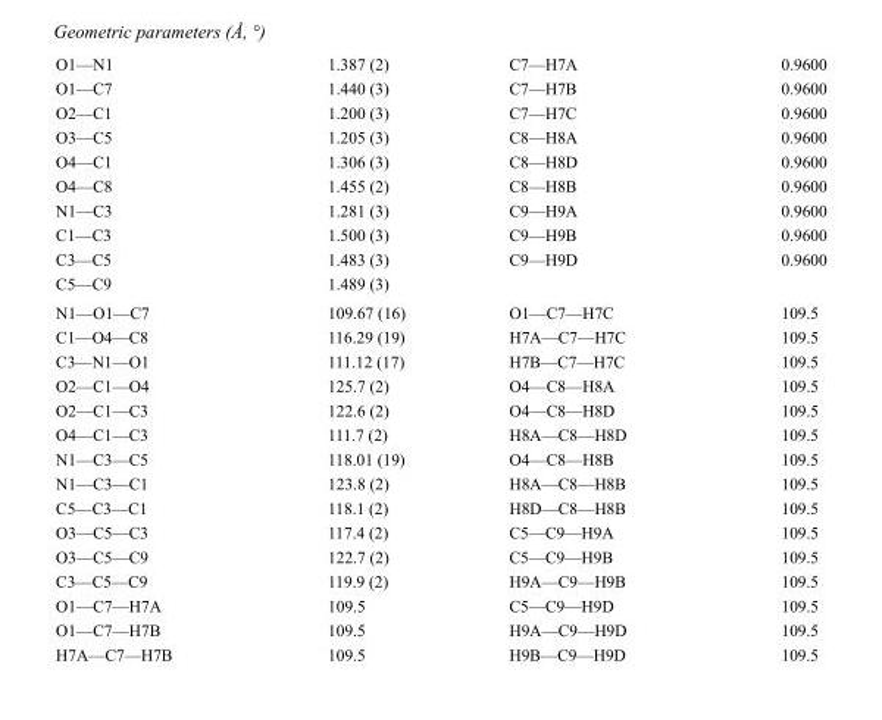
<table><tbody><tr><td>O1—N1</td><td>1.387 (2)</td><td>C7—H7A</td><td>0.9600</td></tr><tr><td>O1—C7</td><td>1.440 (3)</td><td>C7—H7B</td><td>0.9600</td></tr><tr><td>O2—C1</td><td>1.200 (3)</td><td>C7—H7C</td><td>0.9600</td></tr><tr><td>O3—C5</td><td>1.205 (3)</td><td>C8—H8A</td><td>0.9600</td></tr><tr><td>O4—C1</td><td>1.306 (3)</td><td>C8—H8D</td><td>0.9600</td></tr><tr><td>O4—C8</td><td>1.455 (2)</td><td>C8—H8B</td><td>0.9600</td></tr><tr><td>N1—C3</td><td>1.281 (3)</td><td>C9—H9A</td><td>0.9600</td></tr><tr><td>C1—C3</td><td>1.500 (3)</td><td>C9—H9B</td><td>0.9600</td></tr><tr><td>C3—C5</td><td>1.483 (3)</td><td>C9—H9D</td><td>0.9600</td></tr><tr><td>C5—C9</td><td>1.489 (3)</td><td></td><td></td></tr><tr><td>N1—O1—C7</td><td>109.67 (16)</td><td>O1—C7—H7C</td><td>109.5</td></tr><tr><td>C1—O4—C8</td><td>116.29 (19)</td><td>H7A—C7—H7C</td><td>109.5</td></tr><tr><td>C3—N1—O1</td><td>111.12 (17)</td><td>H7B—C7—H7C</td><td>109.5</td></tr><tr><td>O2—C1—O4</td><td>125.7 (2)</td><td>O4—C8—H8A</td><td>109.5</td></tr><tr><td>O2—C1—C3</td><td>122.6 (2)</td><td>O4—C8—H8D</td><td>109.5</td></tr><tr><td>O4—C1—C3</td><td>111.7 (2)</td><td>H8A—C8—H8D</td><td>109.5</td></tr><tr><td>N1—C3—C5</td><td>118.01 (19)</td><td>O4—C8—H8B</td><td>109.5</td></tr><tr><td>N1—C3—C1</td><td>123.8 (2)</td><td>H8A—C8—H8B</td><td>109.5</td></tr><tr><td>C5—C3—C1</td><td>118.1 (2)</td><td>H8D—C8—H8B</td><td>109.5</td></tr><tr><td>O3—C5—C3</td><td>117.4 (2)</td><td>C5—C9—H9A</td><td>109.5</td></tr><tr><td>O3—C5—C9</td><td>122.7 (2)</td><td>C5—C9—H9B</td><td>109.5</td></tr><tr><td>C3—C5—C9</td><td>119.9 (2)</td><td>H9A—C9—H9B</td><td>109.5</td></tr><tr><td>O1—C7—H7A</td><td>109.5</td><td>C5—C9—H9D</td><td>109.5</td></tr><tr><td>O1—C7—H7B</td><td>109.5</td><td>H9A—C9—H9D</td><td>109.5</td></tr><tr><td>H7A—C7—H7B</td><td>109.5</td><td>H9B—C9—H9D</td><td>109.5</td></tr></tbody></table>